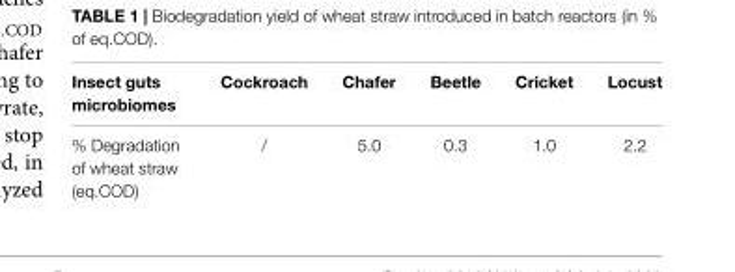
<table><thead><tr><td>Insect guts microbiomes</td><td>Cockroach</td><td>Chafer</td><td>Beetle</td><td>Cricket</td><td>Locust</td></tr></thead><tbody><tr><td>% Degradation of wheat straw (eq.COD)</td><td>/</td><td>5.0</td><td>0.3</td><td>1.0</td><td>2.2</td></tr></tbody></table>